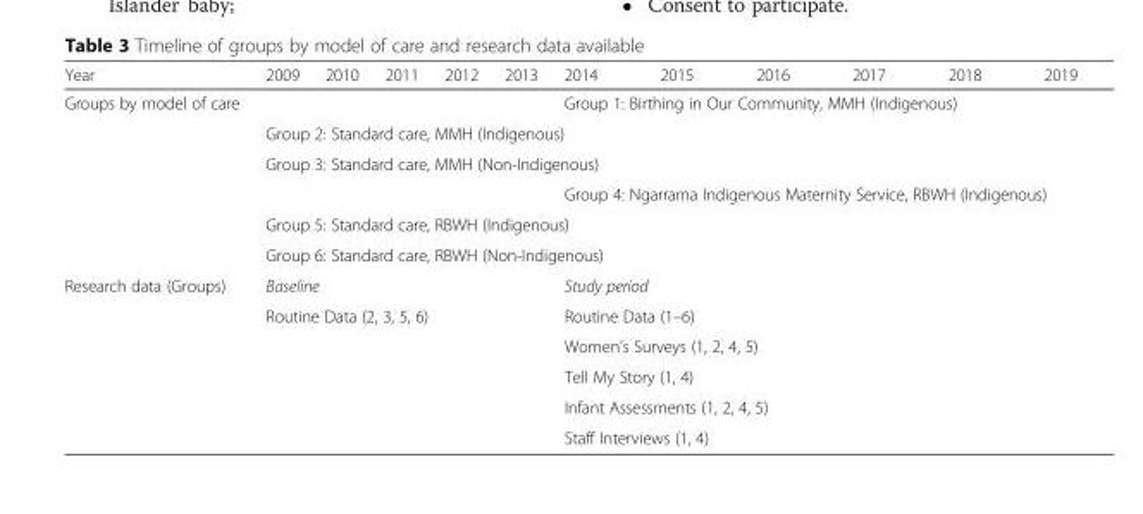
<table><thead><tr><td>Year</td><td>2009</td><td>2010</td><td>2011</td><td>2012</td><td>2013</td><td>2014</td><td>2015</td><td>2016</td><td>2017</td><td>2018</td><td>2019</td></tr></thead><tbody><tr><td rowspan="6">Groups by model of care</td><td></td><td></td><td></td><td></td><td></td><td colspan="6">Group 1: Birthing in Our Community, MMH (Indigenous)</td></tr><tr><td colspan="11">Group 2: Standard care, MMH (Indigenous)</td></tr><tr><td colspan="11">Group 3: Standard care, MMH (Non-Indigenous)</td></tr><tr><td></td><td></td><td></td><td></td><td></td><td colspan="6">Group 4: Ngarrama Indigenous Maternity Service, RBWH (Indigenous)</td></tr><tr><td colspan="11">Group 5: Standard care, RBWH (Indigenous)</td></tr><tr><td colspan="11">Group 6: Standard care, RBWH (Non-Indigenous)</td></tr><tr><td rowspan="6">Research data (Groups)</td><td colspan="5">Baseline</td><td colspan="6">Study period</td></tr><tr><td colspan="5">Routine Data (2, 3, 5, 6)</td><td colspan="6">Routine Data (1–6)</td></tr><tr><td></td><td></td><td></td><td></td><td></td><td colspan="6">Women’s Surveys (1, 2, 4, 5)</td></tr><tr><td></td><td></td><td></td><td></td><td></td><td colspan="6">Tell My Story (1, 4)</td></tr><tr><td></td><td></td><td></td><td></td><td></td><td colspan="6">Infant Assessments (1, 2, 4, 5)</td></tr><tr><td></td><td></td><td></td><td></td><td></td><td colspan="6">Staff Interviews (1, 4)</td></tr></tbody></table>